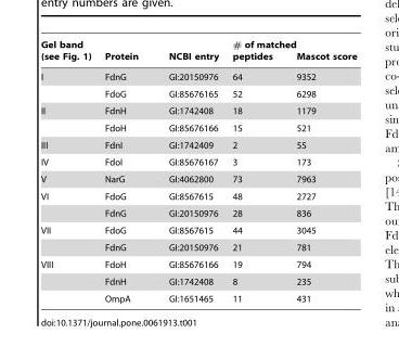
<table><thead><tr><td>Gel band (see Fig. 1)</td><td>Protein</td><td>NCBI entry</td><td># of matched peptides</td><td>Mascot score</td></tr></thead><tbody><tr><td rowspan="2">I</td><td>FdnG</td><td>GI:20150976</td><td>64</td><td>9352</td></tr><tr><td>FdoG</td><td>GI:85676165</td><td>52</td><td>6298</td></tr><tr><td rowspan="2">II</td><td>FdnH</td><td>GI:1742408</td><td>18</td><td>1179</td></tr><tr><td>FdoH</td><td>GI:85676166</td><td>15</td><td>521</td></tr><tr><td>III</td><td>FdnI</td><td>GI:1742409</td><td>2</td><td>55</td></tr><tr><td>IV</td><td>FdoI</td><td>GI:85676167</td><td>3</td><td>173</td></tr><tr><td>V</td><td>NarG</td><td>GI:4062800</td><td>73</td><td>7963</td></tr><tr><td rowspan="2">VI</td><td>FdoG</td><td>GI:8567615</td><td>48</td><td>2727</td></tr><tr><td>FdnG</td><td>GI:20150976</td><td>28</td><td>836</td></tr><tr><td rowspan="2">VII</td><td>FdoG</td><td>GI:8567615</td><td>44</td><td>3045</td></tr><tr><td>FdnG</td><td>GI:20150976</td><td>21</td><td>781</td></tr><tr><td rowspan="3">VIII</td><td>FdoH</td><td>GI:85676166</td><td>19</td><td>794</td></tr><tr><td>FdnH</td><td>GI:1742408</td><td>8</td><td>235</td></tr><tr><td>OmpA</td><td>GI:1651465</td><td>11</td><td>431</td></tr></tbody></table>